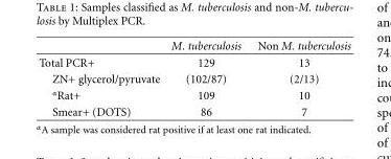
<table><thead><tr><td></td><td>M. tuberculosis</td><td>Non M. tuberculosis</td></tr></thead><tbody><tr><td>Total PCR+</td><td>129</td><td>13</td></tr><tr><td>ZN+ glycerol/pyruvate</td><td>(102/87)</td><td>(2/13)</td></tr><tr><td><sup>α</sup>Rat+</td><td>109</td><td>10</td></tr><tr><td>Smear+ (DOTS)</td><td>86</td><td>7</td></tr></tbody></table>